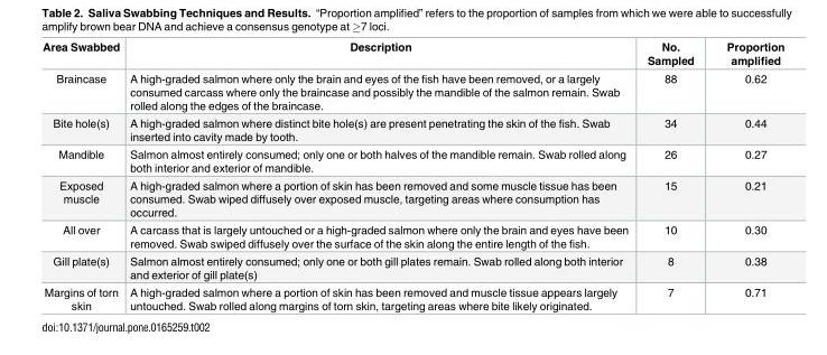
<table><thead><tr><td>Area Swabbed</td><td>Description</td><td>No. Sampled</td><td>Proportion amplified</td></tr></thead><tbody><tr><td>Braincase</td><td>A high-graded salmon where only the brain and eyes of the fish have been removed, or a largely consumed carcass where only the braincase and possibly the mandible of the salmon remain. Swab rolled along the edges of the braincase.</td><td>88</td><td>0.62</td></tr><tr><td>Bite hole(s)</td><td>A high-graded salmon where distinct bite hole(s) are present penetrating the skin of the fish. Swab inserted into cavity made by tooth.</td><td>34</td><td>0.44</td></tr><tr><td>Mandible</td><td>Salmon almost entirely consumed; only one or both halves of the mandible remain. Swab rolled along both interior and exterior of mandible.</td><td>26</td><td>0.27</td></tr><tr><td>Exposed muscle</td><td>A high-graded salmon where a portion of skin has been removed and some muscle tissue has been consumed. Swab wiped diffusely over exposed muscle, targeting areas where consumption has occurred.</td><td>15</td><td>0.21</td></tr><tr><td>All over</td><td>A carcass that is largely untouched or a high-graded salmon where only the brain and eyes have been removed. Swab swiped diffusely over the surface of the skin along the entire length of the fish.</td><td>10</td><td>0.30</td></tr><tr><td>Gill plate(s)</td><td>Salmon almost entirely consumed; only one or both gill plates remain. Swab rolled along both interior and exterior of gill plate(s)</td><td>8</td><td>0.38</td></tr><tr><td>Margins of torn skin</td><td>A high-graded salmon where a portion of skin has been removed and muscle tissue appears largely untouched. Swab rolled along margins of torn skin, targeting areas where bite likely originated.</td><td>7</td><td>0.71</td></tr></tbody></table>